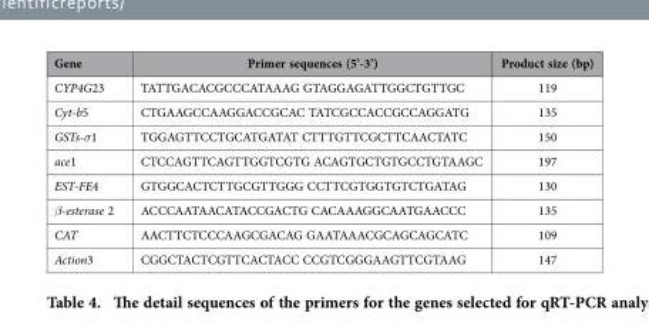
<table><thead><tr><td>Gene</td><td>Primer sequences (5’-3’)</td><td>Product size (bp)</td></tr></thead><tbody><tr><td>CYP4G23</td><td>TATTGACACGCCCATAAAG GTAGGAGATTGGCTGTTGC</td><td>119</td></tr><tr><td>Cyt-b5</td><td>CTGAAGCCAAGGACCGCAC TATCGCCACCGCCAGGATG</td><td>135</td></tr><tr><td>GSTs-σ1</td><td>TGGAGTTCCTGCATGATAT CTTTGTTCGCTTCAACTATC</td><td>150</td></tr><tr><td>ace1</td><td>CTCCAGTTCAGTTGGTCGTG ACAGTGCTGTGCCTGTAAGC</td><td>197</td></tr><tr><td>EST-FE4</td><td>GTGGCACTCTTGCGTTGGG CCTTCGTGGTGTCTGATAG</td><td>130</td></tr><tr><td>β-esterase 2</td><td>ACCCAATAACATACCGACTG CACAAAGGCAATGAACCC</td><td>135</td></tr><tr><td>CAT</td><td>AACTTCTCCCAAGCGACAG GAATAAACGCAGCAGCATC</td><td>109</td></tr><tr><td>Action3</td><td>CGGCTACTCGTTCACTACC CCGTCGGGAAGTTCGTAAG</td><td>147</td></tr></tbody></table>